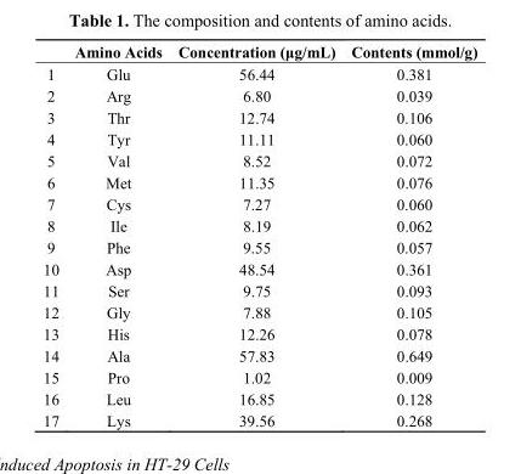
<table><thead><tr><td></td><td>Amino Acids</td><td>Concentration (μg/mL)</td><td>Contents (mmol/g)</td></tr></thead><tbody><tr><td>1</td><td>Glu</td><td>56.44</td><td>0.381</td></tr><tr><td>2</td><td>Arg</td><td>6.80</td><td>0.039</td></tr><tr><td>3</td><td>Thr</td><td>12.74</td><td>0.106</td></tr><tr><td>4</td><td>Tyr</td><td>11.11</td><td>0.060</td></tr><tr><td>5</td><td>Val</td><td>8.52</td><td>0.072</td></tr><tr><td>6</td><td>Met</td><td>11.35</td><td>0.076</td></tr><tr><td>7</td><td>Cys</td><td>7.27</td><td>0.060</td></tr><tr><td>8</td><td>Ile</td><td>8.19</td><td>0.062</td></tr><tr><td>9</td><td>Phe</td><td>9.55</td><td>0.057</td></tr><tr><td>10</td><td>Asp</td><td>48.54</td><td>0.361</td></tr><tr><td>11</td><td>Ser</td><td>9.75</td><td>0.093</td></tr><tr><td>12</td><td>Gly</td><td>7.88</td><td>0.105</td></tr><tr><td>13</td><td>His</td><td>12.26</td><td>0.078</td></tr><tr><td>14</td><td>Ala</td><td>57.83</td><td>0.649</td></tr><tr><td>15</td><td>Pro</td><td>1.02</td><td>0.009</td></tr><tr><td>16</td><td>Leu</td><td>16.85</td><td>0.128</td></tr><tr><td>17</td><td>Lys</td><td>39.56</td><td>0.268</td></tr></tbody></table>